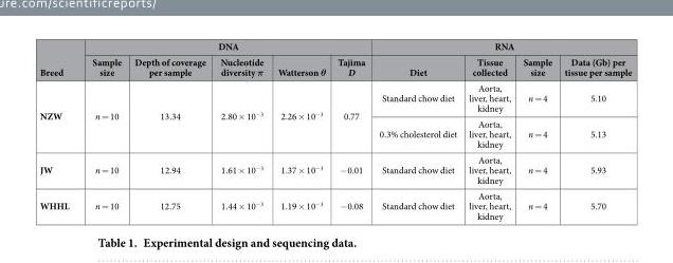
<table><thead><tr><td rowspan="2">Breed</td><td colspan="5">DNA</td><td colspan="4">RNA</td></tr><tr><td>Sample size</td><td>Depth of coverage per sample</td><td>Nucleotide diversity π</td><td>Watterson θ</td><td>Tajima D</td><td>Diet</td><td>Tissue collected</td><td>Sample size</td><td>Data (Gb) per tissue per sample</td></tr></thead><tbody><tr><td rowspan="2">NZW</td><td rowspan="2">n = 10</td><td rowspan="2">13.34</td><td rowspan="2">2.80 × 10<sup>−3</sup></td><td rowspan="2">2.26 × 10<sup>−3</sup></td><td rowspan="2">0.77</td><td>Standard chow diet</td><td>Aorta, liver, heart, kidney</td><td>n = 4</td><td>5.10</td></tr><tr><td>0.3% cholesterol diet</td><td>Aorta, liver, heart, kidney</td><td>n = 4</td><td>5.13</td></tr><tr><td>JW</td><td>n = 10</td><td>12.94</td><td>1.61 × 10<sup>−3</sup></td><td>1.37 × 10<sup>−3</sup></td><td>− 0.01</td><td>Standard chow diet</td><td>Aorta, liver, heart, kidney</td><td>n = 4</td><td>5.93</td></tr><tr><td>WHHL</td><td>n = 10</td><td>12.75</td><td>1.44 × 10<sup>−3</sup></td><td>1.19 × 10<sup>−3</sup></td><td>− 0.08</td><td>Standard chow diet</td><td>Aorta, liver, heart, kidney</td><td>n = 4</td><td>5.70</td></tr></tbody></table>